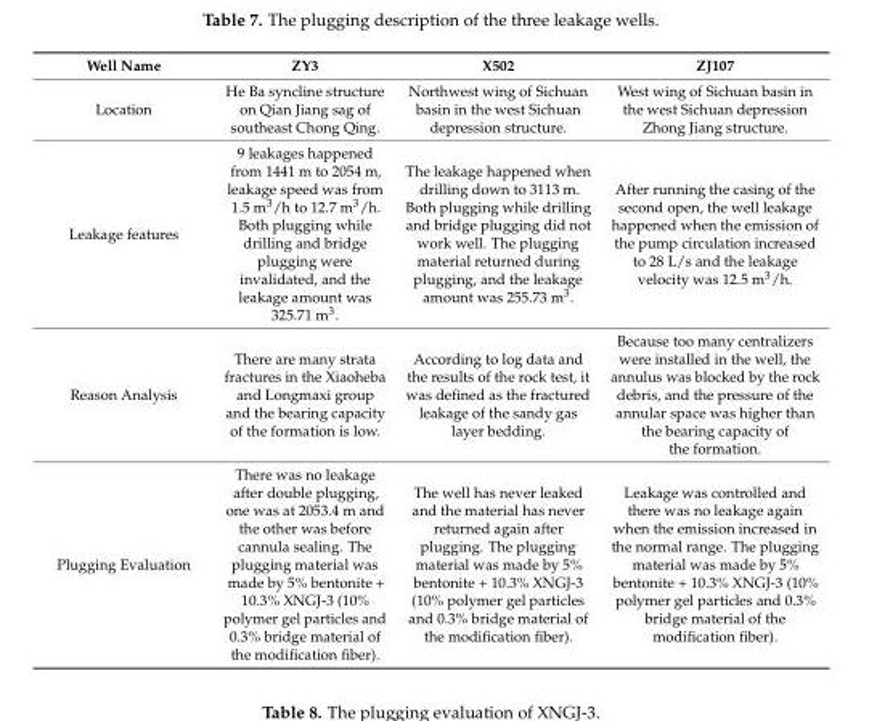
<table><thead><tr><td>Well Name</td><td>ZY3</td><td>X502</td><td>ZJ107</td></tr></thead><tbody><tr><td>Location</td><td>He Ba syncline structure on Qian Jiang sag of southeast Chong Qing.</td><td>Northwest wing of Sichuan basin in the west Sichuan depression structure.</td><td>West wing of Sichuan basin in the west Sichuan depression Zhong Jiang structure.</td></tr><tr><td>Leakage features</td><td>9 leakages happened from 1441 m to 2054 m, leakage speed was from 1.5 m<sup>3</sup>/h to 12.7 m<sup>3</sup>/h. Both plugging while drilling and bridge plugging were invalidated, and the leakage amount was 325.71 m<sup>3</sup>.</td><td>The leakage happened when drilling down to 3113 m. Both plugging while drilling and bridge plugging did not work well. The plugging material returned during plugging, and the leakage amount was 255.73 m<sup>3</sup>.</td><td>After running the casing of the second open, the well leakage happened when the emission of the pump circulation increased to 28 L/s and the leakage velocity was 12.5 m<sup>3</sup>/h.</td></tr><tr><td>Reason Analysis</td><td>There are many strata fractures in the Xiaoheba and Longmaxi group and the bearing capacity of the formation is low.</td><td>According to log data and the results of the rock test, it was defined as the fractured leakage of the sandy gas layer bedding.</td><td>Because too many centralizers were installed in the well, the annulus was blocked by the rock debris, and the pressure of the annular space was higher than the bearing capacity of the formation.</td></tr><tr><td>Plugging Evaluation</td><td>There was no leakage after double plugging, one was at 2053.4 m and the other was before cannula sealing. The plugging material was made by 5% bentonite + 10.3% XNGJ-3 (10% polymer gel particles and 0.3% bridge material of the modification fiber).</td><td>The well has never leaked and the material has never returned again after plugging. The plugging material was made by 5% bentonite + 10.3% XNGJ-3 (10% polymer gel particles and 0.3% bridge material of the modification fiber).</td><td>Leakage was controlled and there was no leakage again when the emission increased in the normal range. The plugging material was made by 5% bentonite + 10.3% XNGJ-3 (10% polymer gel particles and 0.3% bridge material of the modification fiber).</td></tr></tbody></table>